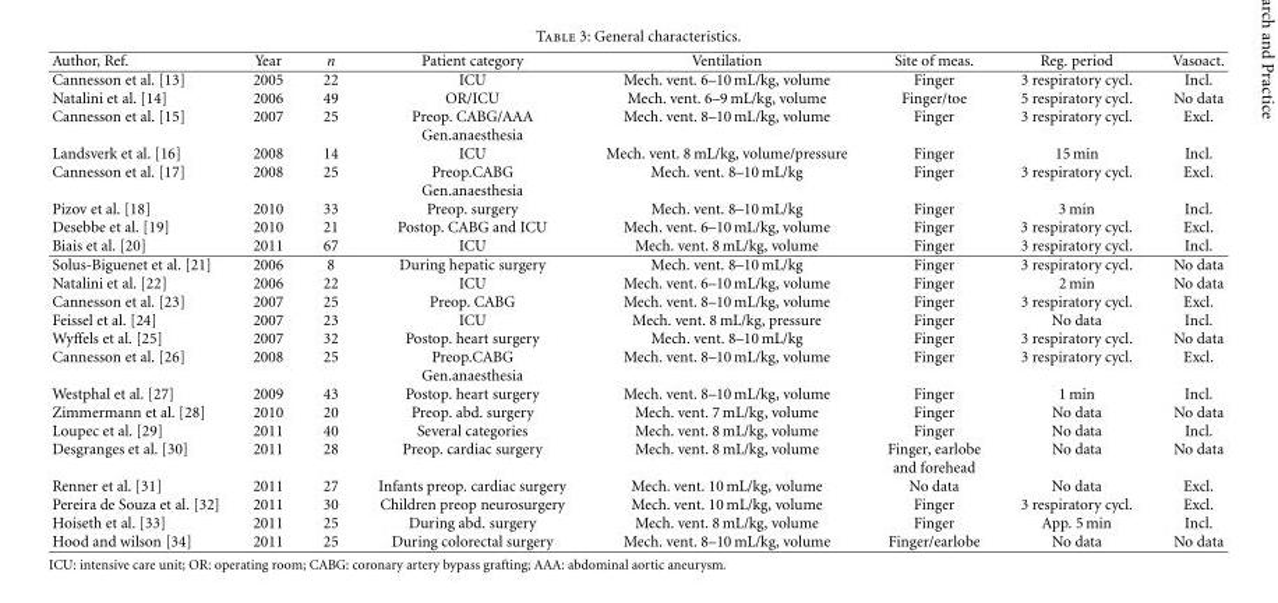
<table><thead><tr><td>Author, Ref.</td><td>Year</td><td>n</td><td>Patient category</td><td>Ventilation</td><td>Site of meas.</td><td>Reg. period</td><td>Vasoact.</td></tr></thead><tbody><tr><td>Cannesson et al. [13]</td><td>2005</td><td>22</td><td>ICU</td><td>Mech. vent. 6–10 mL/kg, volume</td><td>Finger</td><td>3 respiratory cycl.</td><td>Incl.</td></tr><tr><td>Natalini et al. [14]</td><td>2006</td><td>49</td><td>OR/ICU</td><td>Mech. vent. 6–9 mL/kg, volume</td><td>Finger/toe</td><td>5 respiratory cycl.</td><td>No data</td></tr><tr><td rowspan="2">Cannesson et al. [15]</td><td>2007</td><td>25</td><td>Preop. CABG/AAA</td><td>Mech. vent. 8–10 mL/kg, volume</td><td>Finger</td><td>3 respiratory cycl.</td><td>Excl.</td></tr><tr><td></td><td></td><td>Gen.anaesthesia</td><td></td><td></td><td></td><td></td></tr><tr><td>Landsverk et al. [16]</td><td>2008</td><td>14</td><td>ICU</td><td>Mech. vent. 8 mL/kg, volume/pressure</td><td>Finger</td><td>15 min</td><td>Incl.</td></tr><tr><td rowspan="2">Cannesson et al. [17]</td><td>2008</td><td>25</td><td>Preop.CABG</td><td>Mech. vent. 8–10 mL/kg</td><td>Finger</td><td>3 respiratory cycl.</td><td>Excl.</td></tr><tr><td></td><td></td><td>Gen.anaesthesia</td><td></td><td></td><td></td><td></td></tr><tr><td>Pizov et al. [18]</td><td>2010</td><td>33</td><td>Preop. surgery</td><td>Mech. vent. 8–10 mL/kg</td><td>Finger</td><td>3 min</td><td>Incl.</td></tr><tr><td>Desebbe et al. [19]</td><td>2010</td><td>21</td><td>Postop. CABG and ICU</td><td>Mech. vent. 6–10 mL/kg, volume</td><td>Finger</td><td>3 respiratory cycl.</td><td>Excl.</td></tr><tr><td>Biais et al. [20]</td><td>2011</td><td>67</td><td>ICU</td><td>Mech. vent. 8 mL/kg, volume</td><td>Finger</td><td>3 respiratory cycl.</td><td>Incl.</td></tr><tr><td>Solus-Biguenet et al. [21]</td><td>2006</td><td>8</td><td>During hepatic surgery</td><td>Mech. vent. 8–10 mL/kg</td><td>Finger</td><td>3 respiratory cycl.</td><td>No data</td></tr><tr><td>Natalini et al. [22]</td><td>2006</td><td>22</td><td>ICU</td><td>Mech. vent. 6–10 mL/kg, volume</td><td>Finger</td><td>2 min</td><td>No data</td></tr><tr><td>Cannesson et al. [23]</td><td>2007</td><td>25</td><td>Preop. CABG</td><td>Mech. vent. 8–10 mL/kg, volume</td><td>Finger</td><td>3 respiratory cycl.</td><td>Excl.</td></tr><tr><td>Feissel et al. [24]</td><td>2007</td><td>23</td><td>ICU</td><td>Mech. vent. 8 mL/kg, pressure</td><td>Finger</td><td>No data</td><td>Incl.</td></tr><tr><td>Wyffels et al. [25]</td><td>2007</td><td>32</td><td>Postop. heart surgery</td><td>Mech. vent. 8–10 mL/kg</td><td>Finger</td><td>3 respiratory cycl.</td><td>No data</td></tr><tr><td rowspan="2">Cannesson et al. [26]</td><td>2008</td><td>25</td><td>Preop.CABG</td><td>Mech. vent. 8–10 mL/kg, volume</td><td>Finger</td><td>3 respiratory cycl.</td><td>Excl.</td></tr><tr><td></td><td></td><td>Gen.anaesthesia</td><td></td><td></td><td></td><td></td></tr><tr><td>Westphal et al. [27]</td><td>2009</td><td>43</td><td>Postop. heart surgery</td><td>Mech. vent. 8–10 mL/kg, volume</td><td>Finger</td><td>1 min</td><td>Incl.</td></tr><tr><td>Zimmermann et al. [28]</td><td>2010</td><td>20</td><td>Preop. abd. surgery</td><td>Mech. vent. 7 mL/kg, volume</td><td>Finger</td><td>No data</td><td>No data</td></tr><tr><td>Loupec et al. [29]</td><td>2011</td><td>40</td><td>Several categories</td><td>Mech. vent. 8 mL/kg, volume</td><td>Finger</td><td>No data</td><td>Incl.</td></tr><tr><td rowspan="2">Desgranges et al. [30]</td><td>2011</td><td>28</td><td>Preop. cardiac surgery</td><td>Mech. vent. 8 mL/kg, volume</td><td>Finger, earlobe</td><td>No data</td><td>No data</td></tr><tr><td></td><td></td><td></td><td></td><td>and forehead</td><td></td><td></td></tr><tr><td>Renner et al. [31]</td><td>2011</td><td>27</td><td>Infants preop. cardiac surgery</td><td>Mech. vent. 10 mL/kg, volume</td><td>No data</td><td>No data</td><td>Excl.</td></tr><tr><td>Pereira de Souza et al. [32]</td><td>2011</td><td>30</td><td>Children preop neurosurgery</td><td>Mech. vent. 10 mL/kg, volume</td><td>Finger</td><td>3 respiratory cycl.</td><td>Excl.</td></tr><tr><td>Hoiseth et al. [33]</td><td>2011</td><td>25</td><td>During abd. surgery</td><td>Mech. vent. 8 mL/kg, volume</td><td>Finger</td><td>App. 5 min</td><td>Incl.</td></tr><tr><td>Hood and wilson [34]</td><td>2011</td><td>25</td><td>During colorectal surgery</td><td>Mech. vent. 8–10 mL/kg, volume</td><td>Finger/earlobe</td><td>No data</td><td>No data</td></tr></tbody></table>